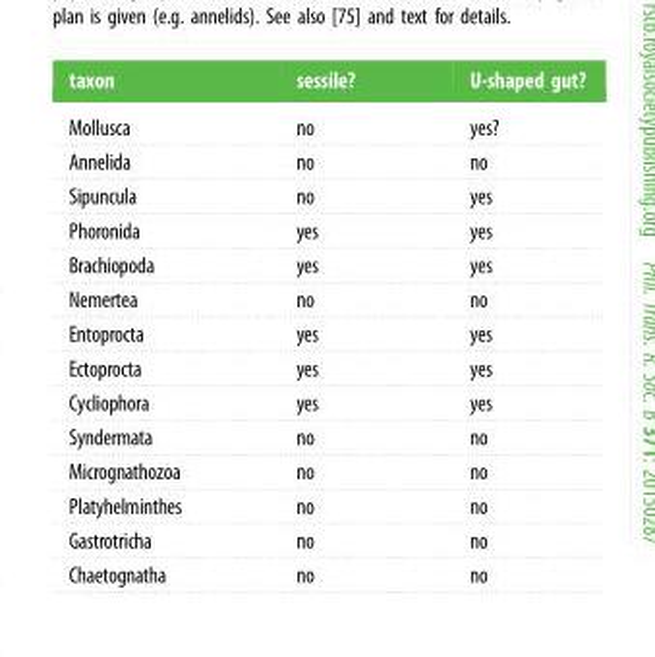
<table><thead><tr><td>taxon</td><td>sessile?</td><td>U-shaped gut?</td></tr></thead><tbody><tr><td>Mollusca</td><td>no</td><td>yes?</td></tr><tr><td>Annelida</td><td>no</td><td>no</td></tr><tr><td>Sipuncula</td><td>no</td><td>yes</td></tr><tr><td>Phoronida</td><td>yes</td><td>yes</td></tr><tr><td>Brachiopoda</td><td>yes</td><td>yes</td></tr><tr><td>Nemertea</td><td>no</td><td>no</td></tr><tr><td>Entoprocta</td><td>yes</td><td>yes</td></tr><tr><td>Ectoprocta</td><td>yes</td><td>yes</td></tr><tr><td>Cycliophora</td><td>yes</td><td>yes</td></tr><tr><td>Syndermata</td><td>no</td><td>no</td></tr><tr><td>Micrognathozoa</td><td>no</td><td>no</td></tr><tr><td>Platyhelminthes</td><td>no</td><td>no</td></tr><tr><td>Gastrotricha</td><td>no</td><td>no</td></tr><tr><td>Chaetognatha</td><td>no</td><td>no</td></tr></tbody></table>